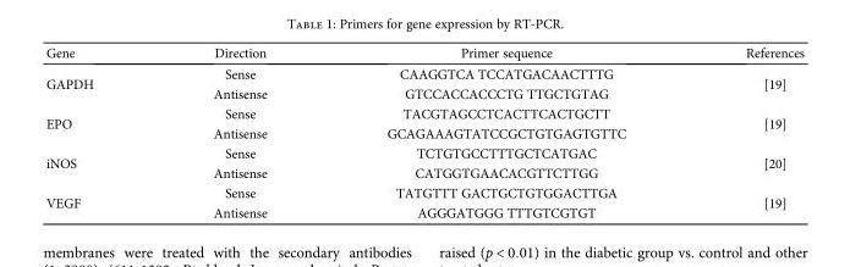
<table><thead><tr><td>Gene</td><td>Direction</td><td>Primer sequence</td><td>References</td></tr></thead><tbody><tr><td rowspan="2">GAPDH</td><td>Sense</td><td>CAAGGTCA TCCATGACAACTTTG</td><td rowspan="2">[19]</td></tr><tr><td>Antisense</td><td>GTCCACCACCCTG TTGCTGTAG</td></tr><tr><td rowspan="2">EPO</td><td>Sense</td><td>TACGTAGCCTCACTTCACTGCTT</td><td rowspan="2">[19]</td></tr><tr><td>Antisense</td><td>GCAGAAAGTATCCGCTGTGAGTGTTC</td></tr><tr><td rowspan="2">iNOS</td><td>Sense</td><td>TCTGTGCCTTTGCTCATGAC</td><td rowspan="2">[20]</td></tr><tr><td>Antisense</td><td>CATGGTGAACACGTTCTTGG</td></tr><tr><td rowspan="2">VEGF</td><td>Sense</td><td>TATGTTT GACTGCTGTGGACTTGA</td><td rowspan="2">[19]</td></tr><tr><td>Antisense</td><td>AGGGATGGG TTTGTCGTGT</td></tr></tbody></table>